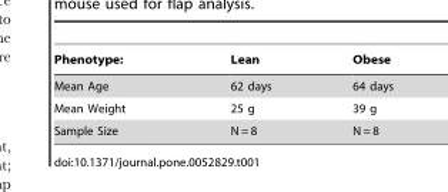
<table><thead><tr><td>Phenotype:</td><td>Lean</td><td>Obese</td></tr></thead><tbody><tr><td>Mean Age</td><td>62 days</td><td>64 days</td></tr><tr><td>Mean Weight</td><td>25 g</td><td>39 g</td></tr><tr><td>Sample Size</td><td>N = 8</td><td>N = 8</td></tr></tbody></table>